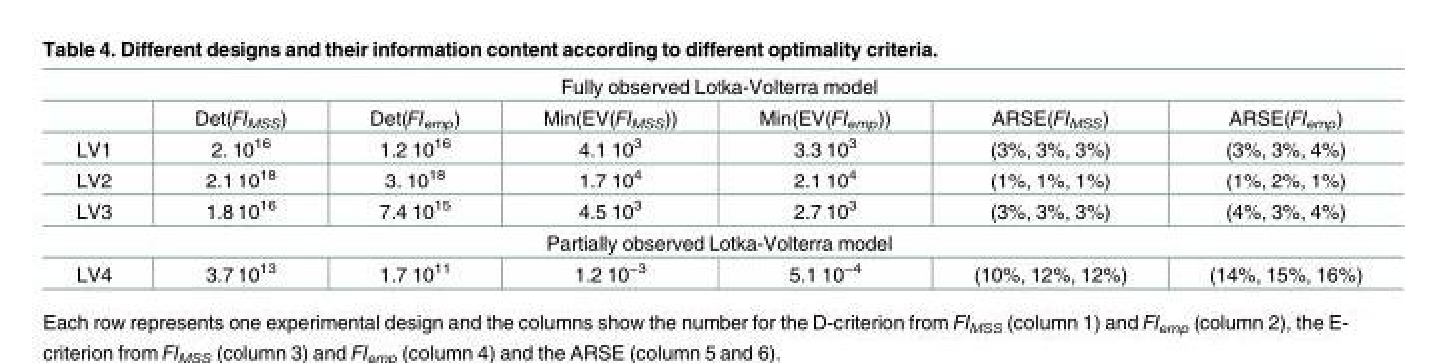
<table><tbody><tr><td colspan="7">Fully observed Lotka-Volterra model</td></tr><tr><td></td><td>Det(FI<sub>MSS</sub>)</td><td>Det(FI<sub>emp</sub>)</td><td>Min(EV(FI<sub>MSS</sub>))</td><td>Min(EV(FI<sub>emp</sub>))</td><td>ARSE(FI<sub>MSS</sub>)</td><td>ARSE(FI<sub>emp</sub>)</td></tr><tr><td>LV1</td><td>2. 10<sup>16</sup></td><td>1.2 10<sup>16</sup></td><td>4.1 10<sup>3</sup></td><td>3.3 10<sup>3</sup></td><td>(3%, 3%, 3%)</td><td>(3%, 3%, 4%)</td></tr><tr><td>LV2</td><td>2.1 10<sup>18</sup></td><td>3. 10<sup>18</sup></td><td>1.7 10<sup>4</sup></td><td>2.1 10<sup>4</sup></td><td>(1%, 1%, 1%)</td><td>(1%, 2%, 1%)</td></tr><tr><td>LV3</td><td>1.8 10<sup>16</sup></td><td>7.4 10<sup>15</sup></td><td>4.5 10<sup>3</sup></td><td>2.7 10<sup>3</sup></td><td>(3%, 3%, 3%)</td><td>(4%, 3%, 4%)</td></tr><tr><td colspan="7">Partially observed Lotka-Volterra model</td></tr><tr><td>LV4</td><td>3.7 10<sup>13</sup></td><td>1.7 10<sup>11</sup></td><td>1.2 10<sup>−3</sup></td><td>5.1 10<sup>−4</sup></td><td>(10%, 12%, 12%)</td><td>(14%, 15%, 16%)</td></tr></tbody></table>